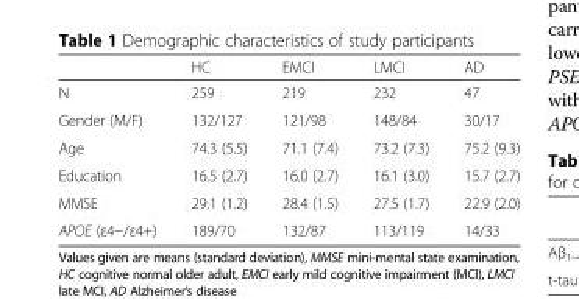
<table><thead><tr><td></td><td>HC</td><td>EMCI</td><td>LMCI</td><td>AD</td></tr></thead><tbody><tr><td>N</td><td>259</td><td>219</td><td>232</td><td>47</td></tr><tr><td>Gender (M/F)</td><td>132/127</td><td>121/98</td><td>148/84</td><td>30/17</td></tr><tr><td>Age</td><td>74.3 (5.5)</td><td>71.1 (7.4)</td><td>73.2 (7.3)</td><td>75.2 (9.3)</td></tr><tr><td>Education</td><td>16.5 (2.7)</td><td>16.0 (2.7)</td><td>16.1 (3.0)</td><td>15.7 (2.7)</td></tr><tr><td>MMSE</td><td>29.1 (1.2)</td><td>28.4 (1.5)</td><td>27.5 (1.7)</td><td>22.9 (2.0)</td></tr><tr><td>APOE (ε4−/ε4+)</td><td>189/70</td><td>132/87</td><td>113/119</td><td>14/33</td></tr></tbody></table>